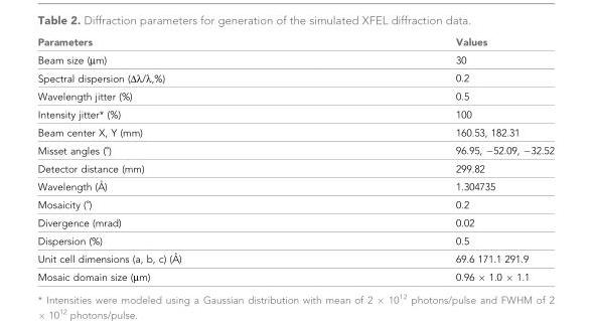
<table><thead><tr><td>Parameters</td><td>Values</td></tr></thead><tbody><tr><td>Beam size (μm)</td><td>30</td></tr><tr><td>Spectral dispersion (Δλ/λ,%)</td><td>0.2</td></tr><tr><td>Wavelength jitter (%)</td><td>0.5</td></tr><tr><td>Intensity jitter* (%)</td><td>100</td></tr><tr><td>Beam center X, Y (mm)</td><td>160.53, 182.31</td></tr><tr><td>Misset angles (˚)</td><td>96.95, −52.09, −32.52</td></tr><tr><td>Detector distance (mm)</td><td>299.82</td></tr><tr><td>Wavelength (A˚ )</td><td>1.304735</td></tr><tr><td>Mosaicity (˚)</td><td>0.2</td></tr><tr><td>Divergence (mrad)</td><td>0.02</td></tr><tr><td>Dispersion (%)</td><td>0.5</td></tr><tr><td>Unit cell dimensions (a, b, c) (A˚ )</td><td>69.6 171.1 291.9</td></tr><tr><td>Mosaic domain size (μm)</td><td>0.96 × 1.0 × 1.1</td></tr></tbody></table>